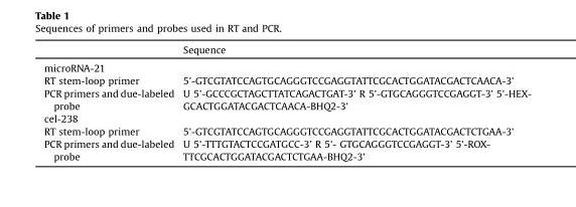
<table><thead><tr><td></td><td>Sequence</td></tr></thead><tbody><tr><td colspan="2">microRNA-21</td></tr><tr><td>RT stem-loop primer</td><td>5’-GTCGTATCCAGTGCAGGGTCCGAGGTATTCGCACTGGATACGACTCAACA-3’</td></tr><tr><td>PCR primers and due-labeled probe</td><td>U 5’-GCCCGCTAGCTTATCAGACTGAT-3’ R 5’-GTGCAGGGTCCGAGGT-3’ 5’-HEX- GCACTGGATACGACTCAACA-BHQ2-3’</td></tr><tr><td colspan="2">cel-238</td></tr><tr><td>RT stem-loop primer</td><td>5’-GTCGTATCCAGTGCAGGGTCCGAGGTATTCGCACTGGATACGACTCTGAA-3’</td></tr><tr><td>PCR primers and due-labeled probe</td><td>U 5’-TTTGTACTCCGATGCC-3’ R 5’- GTGCAGGGTCCGAGGT-3’ 5’-ROX- TTCGCACTGGATACGACTCTGAA-BHQ2-3’</td></tr></tbody></table>